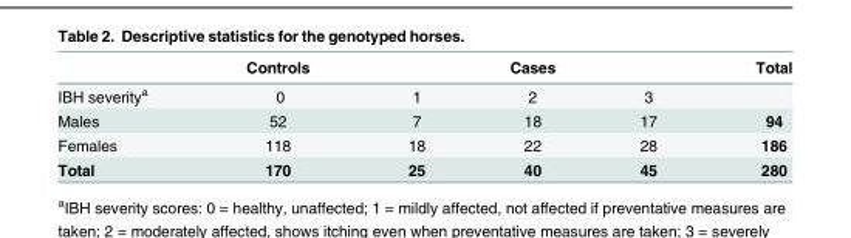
<table><thead><tr><td rowspan="2">IBH severity<sup>a</sup></td><td rowspan="2">Controls 0</td><td colspan="3">Cases</td><td rowspan="2">Total</td></tr><tr><td>1</td><td>2</td><td>3</td></tr></thead><tbody><tr><td>Males</td><td>52</td><td>7</td><td>18</td><td>17</td><td>94</td></tr><tr><td>Females</td><td>118</td><td>18</td><td>22</td><td>28</td><td>186</td></tr><tr><td>Total</td><td>170</td><td>25</td><td>40</td><td>45</td><td>280</td></tr></tbody></table>